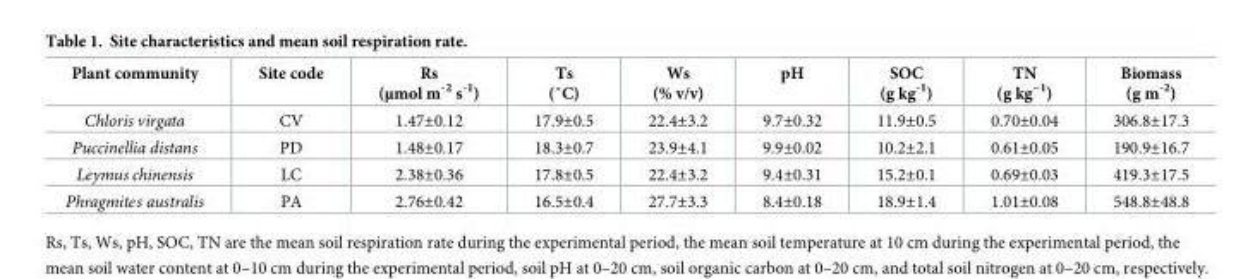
<table><thead><tr><td>Plant community</td><td>Site code</td><td>Rs (μmol m<sup>-2</sup> s<sup>-1</sup>)</td><td>Ts (˚C)</td><td>Ws (% v/v)</td><td>pH</td><td>SOC (g kg<sup>-1</sup>)</td><td>TN (g kg<sup>−1</sup>)</td><td>Biomass (g m<sup>-2</sup>)</td></tr></thead><tbody><tr><td>Chloris virgata</td><td>CV</td><td>1.47±0.12</td><td>17.9±0.5</td><td>22.4±3.2</td><td>9.7±0.32</td><td>11.9±0.5</td><td>0.70±0.04</td><td>306.8±17.3</td></tr><tr><td>Puccinellia distans</td><td>PD</td><td>1.48±0.17</td><td>18.3±0.7</td><td>23.9±4.1</td><td>9.9±0.02</td><td>10.2±2.1</td><td>0.61±0.05</td><td>190.9±16.7</td></tr><tr><td>Leymus chinensis</td><td>LC</td><td>2.38±0.36</td><td>17.8±0.5</td><td>22.4±3.2</td><td>9.4±0.31</td><td>15.2±0.1</td><td>0.69±0.03</td><td>419.3±17.5</td></tr><tr><td>Phragmites australis</td><td>PA</td><td>2.76±0.42</td><td>16.5±0.4</td><td>27.7±3.3</td><td>8.4±0.18</td><td>18.9±1.4</td><td>1.01±0.08</td><td>548.8±48.8</td></tr></tbody></table>